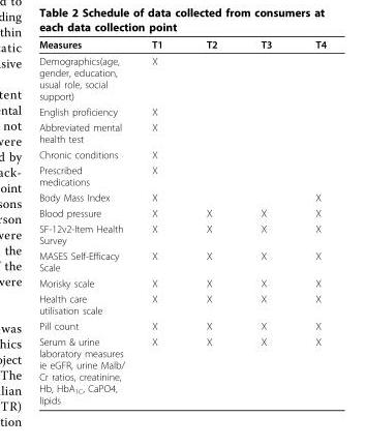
<table><thead><tr><td>Measures</td><td>T1</td><td>T2</td><td>T3</td><td>T4</td></tr></thead><tbody><tr><td>Demographics(age, gender, education, usual role, social support)</td><td>X</td><td></td><td></td><td></td></tr><tr><td>English proficiency</td><td>X</td><td></td><td></td><td></td></tr><tr><td>Abbreviated mental health test</td><td>X</td><td></td><td></td><td></td></tr><tr><td>Chronic conditions</td><td>X</td><td></td><td></td><td></td></tr><tr><td>Prescribed medications</td><td>X</td><td></td><td></td><td></td></tr><tr><td>Body Mass Index</td><td>X</td><td></td><td></td><td>X</td></tr><tr><td>Blood pressure</td><td>X</td><td>X</td><td>X</td><td>X</td></tr><tr><td>SF-12v2-Item Health Survey</td><td>X</td><td>X</td><td>X</td><td>X</td></tr><tr><td>MASES Self-Efficacy Scale</td><td>X</td><td>X</td><td>X</td><td>X</td></tr><tr><td>Morisky scale</td><td>X</td><td>X</td><td>X</td><td>X</td></tr><tr><td>Health care utilisation scale</td><td>X</td><td>X</td><td>X</td><td>X</td></tr><tr><td>Pill count</td><td>X</td><td>X</td><td>X</td><td>X</td></tr><tr><td>Serum &amp; urine laboratory measures ie eGFR, urine Malb/ Cr ratios, creatinine, Hb, HbA<sub>1C</sub>, CaPO4, lipids</td><td>X</td><td>X</td><td>X</td><td>X</td></tr></tbody></table>